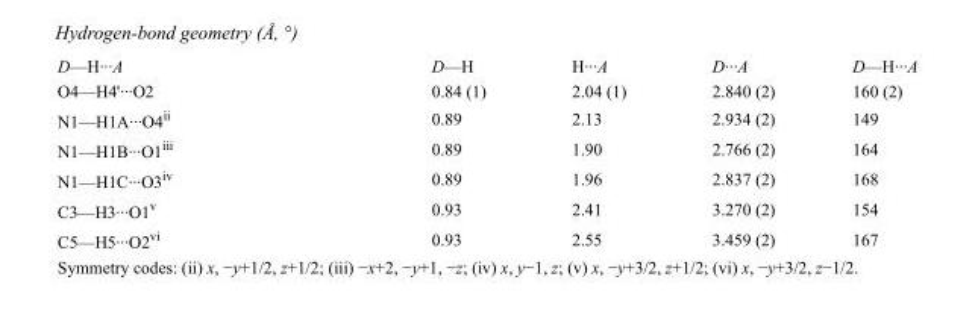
<table><tbody><tr><td>D—H···A</td><td>D—H</td><td>H···A</td><td>D···A</td><td>D—H···A</td></tr><tr><td>O4—H4&#x27;···O2</td><td>0.84 (1)</td><td>2.04 (1)</td><td>2.840 (2)</td><td>160 (2)</td></tr><tr><td>N1—H1A···O4<sup>ii</sup></td><td>0.89</td><td>2.13</td><td>2.934 (2)</td><td>149</td></tr><tr><td>N1—H1B···O1<sup>iii</sup></td><td>0.89</td><td>1.90</td><td>2.766 (2)</td><td>164</td></tr><tr><td>N1—H1C···O3<sup>iv</sup></td><td>0.89</td><td>1.96</td><td>2.837 (2)</td><td>168</td></tr><tr><td>C3—H3···O1<sup>v</sup></td><td>0.93</td><td>2.41</td><td>3.270 (2)</td><td>154</td></tr><tr><td>C5—H5···O2<sup>vi</sup></td><td>0.93</td><td>2.55</td><td>3.459 (2)</td><td>167</td></tr></tbody></table>